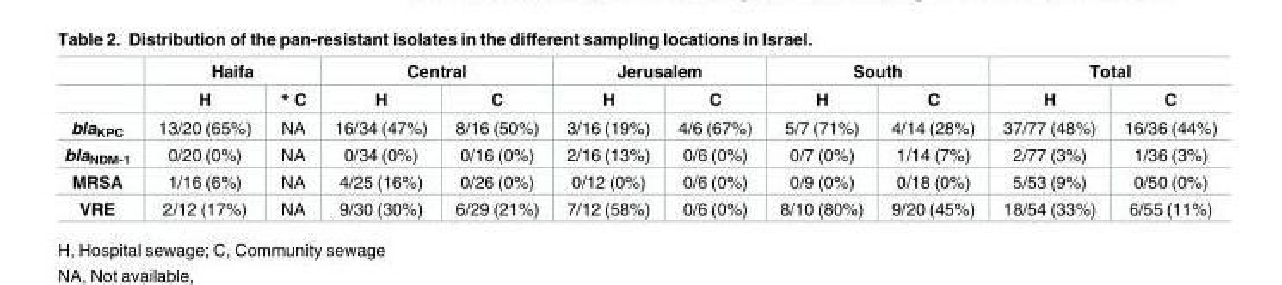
<table><thead><tr><td rowspan="2"></td><td colspan="2">Haifa</td><td colspan="2">Central</td><td colspan="2">Jerusalem</td><td colspan="2">South</td><td colspan="2">Total</td></tr><tr><td>H</td><td>* C</td><td>H</td><td>C</td><td>H</td><td>C</td><td>H</td><td>C</td><td>H</td><td>C</td></tr></thead><tbody><tr><td>bla<sub>KPC</sub></td><td>13/20 (65%)</td><td>NA</td><td>16/34 (47%)</td><td>8/16 (50%)</td><td>3/16 (19%)</td><td>4/6 (67%)</td><td>5/7 (71%)</td><td>4/14 (28%)</td><td>37/77 (48%)</td><td>16/36 (44%)</td></tr><tr><td>bla<sub>NDM-1</sub></td><td>0/20 (0%)</td><td>NA</td><td>0/34 (0%)</td><td>0/16 (0%)</td><td>2/16 (13%)</td><td>0/6 (0%)</td><td>0/7 (0%)</td><td>1/14 (7%)</td><td>2/77 (3%)</td><td>1/36 (3%)</td></tr><tr><td>MRSA</td><td>1/16 (6%)</td><td>NA</td><td>4/25 (16%)</td><td>0/26 (0%)</td><td>0/12 (0%)</td><td>0/6 (0%)</td><td>0/9 (0%)</td><td>0/18 (0%)</td><td>5/53 (9%)</td><td>0/50 (0%)</td></tr><tr><td>VRE</td><td>2/12 (17%)</td><td>NA</td><td>9/30 (30%)</td><td>6/29 (21%)</td><td>7/12 (58%)</td><td>0/6 (0%)</td><td>8/10 (80%)</td><td>9/20 (45%)</td><td>18/54 (33%)</td><td>6/55 (11%)</td></tr></tbody></table>